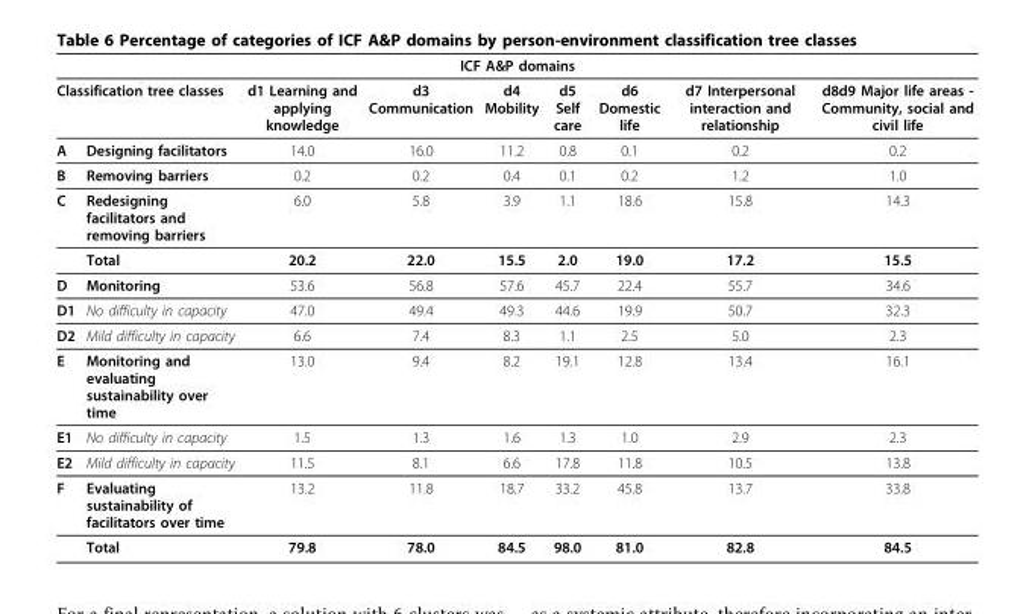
<table><thead><tr><td colspan="9">ICF A&amp;P domains</td></tr><tr><td colspan="2">Classification tree classes</td><td rowspan="2">d1 Learning and applying knowledge 14.0</td><td rowspan="2">d3 Communication 16.0</td><td rowspan="2">d4 Mobility 11.2</td><td rowspan="2">d5 Self care 0.8</td><td rowspan="2">d6 Domestic life 0.1</td><td rowspan="2">d7 Interpersonal interaction and relationship 0.2</td><td rowspan="2">d8d9 Major life areas - Community, social and civil life 0.2</td></tr><tr><td>A</td><td>Designing facilitators</td></tr></thead><tbody><tr><td>B</td><td>Removing barriers</td><td>0.2</td><td>0.2</td><td>0.4</td><td>0.1</td><td>0.2</td><td>1.2</td><td>1.0</td></tr><tr><td rowspan="2">C</td><td>Redesigning facilitators and removing barriers</td><td>6.0</td><td>5.8</td><td>3.9</td><td>1.1</td><td>18.6</td><td>15.8</td><td>14.3</td></tr><tr><td>Total</td><td>20.2</td><td>22.0</td><td>15.5</td><td>2.0</td><td>19.0</td><td>17.2</td><td>15.5</td></tr><tr><td>D</td><td>Monitoring</td><td>53.6</td><td>56.8</td><td>57.6</td><td>45.7</td><td>22.4</td><td>55.7</td><td>34.6</td></tr><tr><td>D1</td><td>No difficulty in capacity</td><td>47.0</td><td>49.4</td><td>49.3</td><td>44.6</td><td>19.9</td><td>50.7</td><td>32.3</td></tr><tr><td>D2</td><td>Mild difficulty in capacity</td><td>6.6</td><td>7.4</td><td>8.3</td><td>1.1</td><td>2.5</td><td>5.0</td><td>2.3</td></tr><tr><td>E</td><td>Monitoring and evaluating sustainability over time</td><td>13.0</td><td>9.4</td><td>8.2</td><td>19.1</td><td>12.8</td><td>13.4</td><td>16.1</td></tr><tr><td>E1</td><td>No difficulty in capacity</td><td>1.5</td><td>1.3</td><td>1.6</td><td>1.3</td><td>1.0</td><td>2.9</td><td>2.3</td></tr><tr><td>E2</td><td>Mild difficulty in capacity</td><td>11.5</td><td>8.1</td><td>6.6</td><td>17.8</td><td>11.8</td><td>10.5</td><td>13.8</td></tr><tr><td rowspan="2">F</td><td>Evaluating sustainability of facilitators over time</td><td>13.2</td><td>11.8</td><td>18.7</td><td>33.2</td><td>45.8</td><td>13.7</td><td>33.8</td></tr><tr><td>Total</td><td>79.8</td><td>78.0</td><td>84.5</td><td>98.0</td><td>81.0</td><td>82.8</td><td>84.5</td></tr></tbody></table>